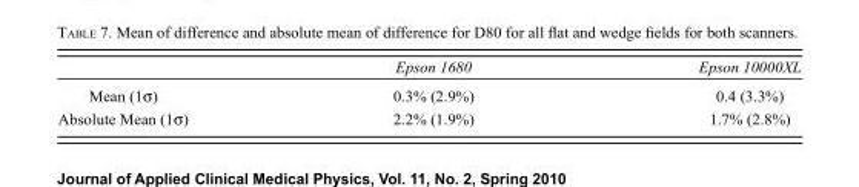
<table><thead><tr><td></td><td>Epson 1680</td><td>Epson 10000XL</td></tr></thead><tbody><tr><td>Mean (1σ)</td><td>0.3% (2.9%)</td><td>0.4 (3.3%)</td></tr><tr><td>Absolute Mean (1σ)</td><td>2.2% (1.9%)</td><td>1.7% (2.8%)</td></tr></tbody></table>